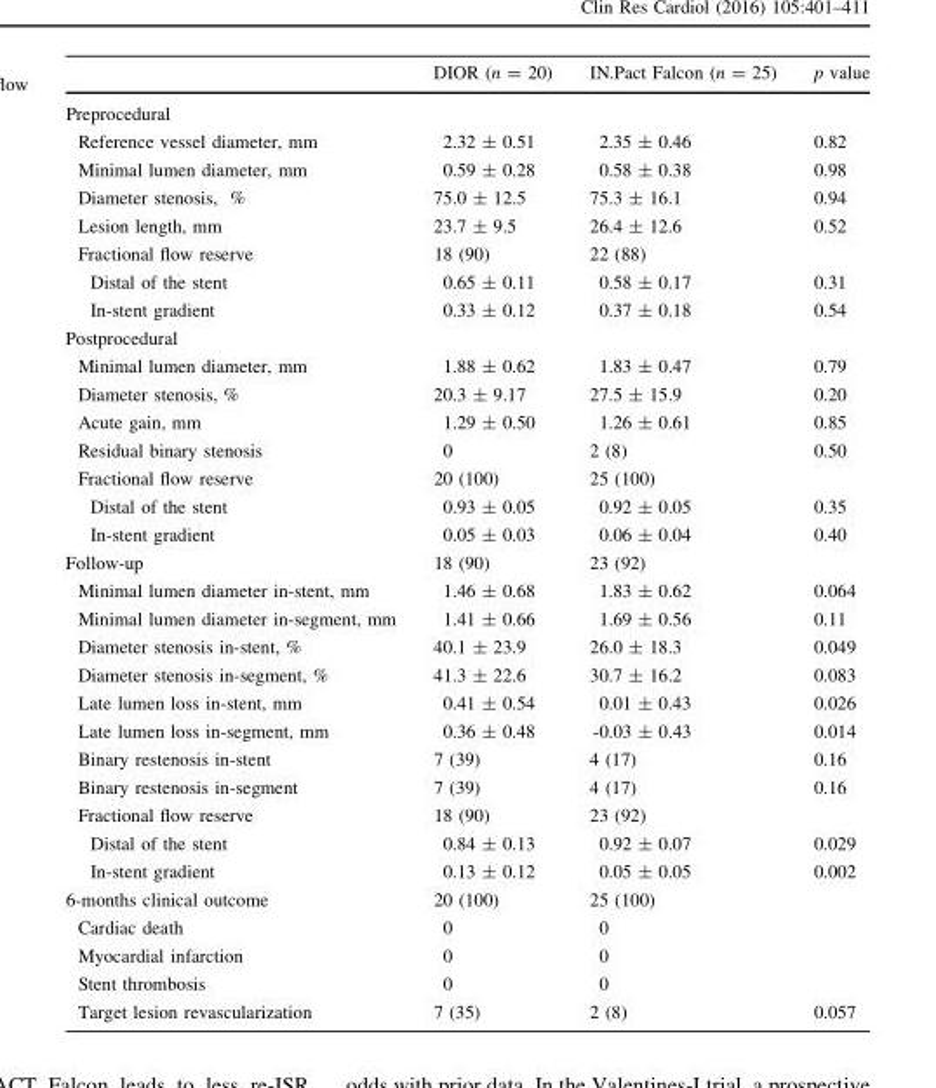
<table><thead><tr><td></td><td>DIOR (n = 20)</td><td>IN.Pact Falcon (n = 25)</td><td>p value</td></tr></thead><tbody><tr><td colspan="4">Preprocedural</td></tr><tr><td>Reference vessel diameter, mm</td><td>2.32 ± 0.51</td><td>2.35 ± 0.46</td><td>0.82</td></tr><tr><td>Minimal lumen diameter, mm</td><td>0.59 ± 0.28</td><td>0.58 ± 0.38</td><td>0.98</td></tr><tr><td>Diameter stenosis, %</td><td>75.0 ± 12.5</td><td>75.3 ± 16.1</td><td>0.94</td></tr><tr><td>Lesion length, mm</td><td>23.7 ± 9.5</td><td>26.4 ± 12.6</td><td>0.52</td></tr><tr><td>Fractional flow reserve</td><td>18 (90)</td><td>22 (88)</td><td></td></tr><tr><td>Distal of the stent</td><td>0.65 ± 0.11</td><td>0.58 ± 0.17</td><td>0.31</td></tr><tr><td>In-stent gradient</td><td>0.33 ± 0.12</td><td>0.37 ± 0.18</td><td>0.54</td></tr><tr><td colspan="4">Postprocedural</td></tr><tr><td>Minimal lumen diameter, mm</td><td>1.88 ± 0.62</td><td>1.83 ± 0.47</td><td>0.79</td></tr><tr><td>Diameter stenosis, %</td><td>20.3 ± 9.17</td><td>27.5 ± 15.9</td><td>0.20</td></tr><tr><td>Acute gain, mm</td><td>1.29 ± 0.50</td><td>1.26 ± 0.61</td><td>0.85</td></tr><tr><td>Residual binary stenosis</td><td>0</td><td>2 (8)</td><td>0.50</td></tr><tr><td>Fractional flow reserve</td><td>20 (100)</td><td>25 (100)</td><td></td></tr><tr><td>Distal of the stent</td><td>0.93 ± 0.05</td><td>0.92 ± 0.05</td><td>0.35</td></tr><tr><td>In-stent gradient</td><td>0.05 ± 0.03</td><td>0.06 ± 0.04</td><td>0.40</td></tr><tr><td>Follow-up</td><td>18 (90)</td><td>23 (92)</td><td></td></tr><tr><td>Minimal lumen diameter in-stent, mm</td><td>1.46 ± 0.68</td><td>1.83 ± 0.62</td><td>0.064</td></tr><tr><td>Minimal lumen diameter in-segment, mm</td><td>1.41 ± 0.66</td><td>1.69 ± 0.56</td><td>0.11</td></tr><tr><td>Diameter stenosis in-stent, %</td><td>40.1 ± 23.9</td><td>26.0 ± 18.3</td><td>0.049</td></tr><tr><td>Diameter stenosis in-segment, %</td><td>41.3 ± 22.6</td><td>30.7 ± 16.2</td><td>0.083</td></tr><tr><td>Late lumen loss in-stent, mm</td><td>0.41 ± 0.54</td><td>0.01 ± 0.43</td><td>0.026</td></tr><tr><td>Late lumen loss in-segment, mm</td><td>0.36 ± 0.48</td><td>-0.03 ± 0.43</td><td>0.014</td></tr><tr><td>Binary restenosis in-stent</td><td>7 (39)</td><td>4 (17)</td><td>0.16</td></tr><tr><td>Binary restenosis in-segment</td><td>7 (39)</td><td>4 (17)</td><td>0.16</td></tr><tr><td>Fractional flow reserve</td><td>18 (90)</td><td>23 (92)</td><td></td></tr><tr><td>Distal of the stent</td><td>0.84 ± 0.13</td><td>0.92 ± 0.07</td><td>0.029</td></tr><tr><td>In-stent gradient</td><td>0.13 ± 0.12</td><td>0.05 ± 0.05</td><td>0.002</td></tr><tr><td>6-months clinical outcome</td><td>20 (100)</td><td>25 (100)</td><td></td></tr><tr><td>Cardiac death</td><td>0</td><td>0</td><td></td></tr><tr><td>Myocardial infarction</td><td>0</td><td>0</td><td></td></tr><tr><td>Stent thrombosis</td><td>0</td><td>0</td><td></td></tr><tr><td>Target lesion revascularization</td><td>7 (35)</td><td>2 (8)</td><td>0.057</td></tr></tbody></table>